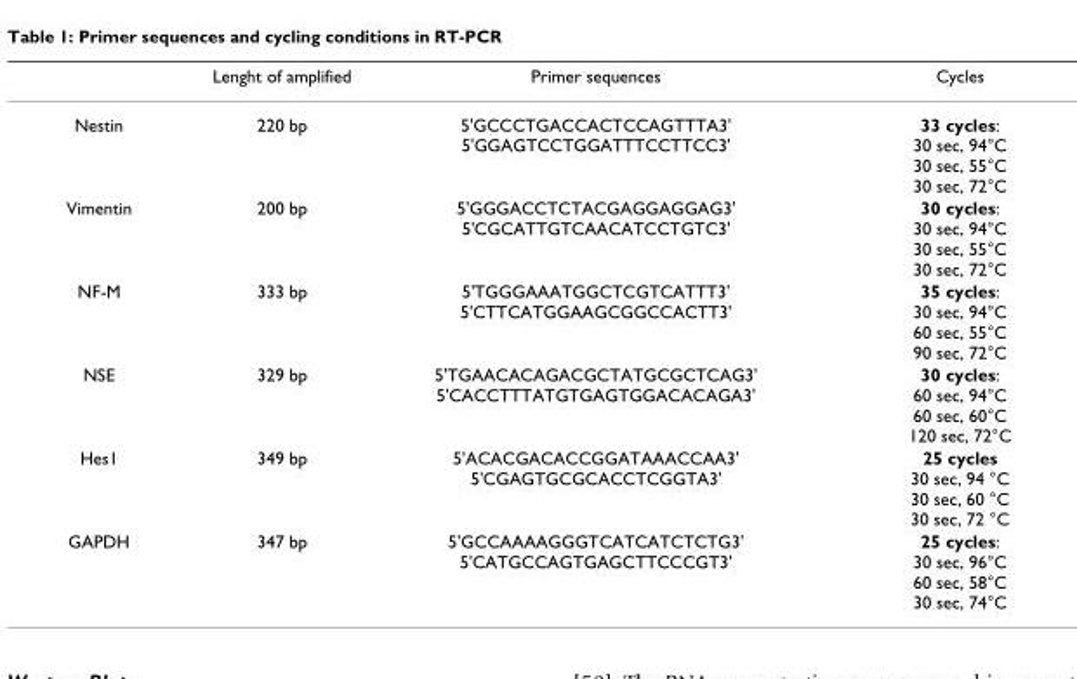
<table><thead><tr><td></td><td>Lenght of amplified</td><td>Primer sequences</td><td>Cycles</td></tr></thead><tbody><tr><td>Nestin</td><td>220 bp</td><td>5&#x27;GCCCTGACCACTCCAGTTTA3&#x27; 5&#x27;GGAGTCCTGGATTTCCTTCC3&#x27;</td><td>33 cycles: 30 sec, 94°C 30 sec, 55°C 30 sec, 72°C</td></tr><tr><td>Vimentin</td><td>200 bp</td><td>5&#x27;GGGACCTCTACGAGGAGGAG3&#x27; 5&#x27;CGCATTGTCAACATCCTGTC3&#x27;</td><td>30 cycles: 30 sec, 94°C 30 sec, 55°C 30 sec, 72°C</td></tr><tr><td>NF-M</td><td>333 bp</td><td>5&#x27;TGGGAAATGGCTCGTCATTT3&#x27; 5&#x27;CTTCATGGAAGCGGCCACTT3&#x27;</td><td>35 cycles: 30 sec, 94°C 60 sec, 55°C 90 sec, 72°C</td></tr><tr><td>NSE</td><td>329 bp</td><td>5&#x27;TGAACACAGACGCTATGCGCTCAG3&#x27; 5&#x27;CACCTTTATGTGAGTGGACACAGA3&#x27;</td><td>30 cycles: 60 sec, 94°C 60 sec, 60°C 120 sec, 72°C</td></tr><tr><td>Hes1</td><td>349 bp</td><td>5&#x27;ACACGACACCGGATAAACCAA3&#x27; 5&#x27;CGAGTGCGCACCTCGGTA3&#x27;</td><td>25 cycles 30 sec, 94 °C 30 sec, 60 °C 30 sec, 72 °C</td></tr><tr><td>GAPDH</td><td>347 bp</td><td>5&#x27;GCCAAAAGGGTCATCATCTCTG3&#x27; 5&#x27;CATGCCAGTGAGCTTCCCGT3&#x27;</td><td>25 cycles: 30 sec, 96°C 60 sec, 58°C 30 sec, 74°C</td></tr></tbody></table>